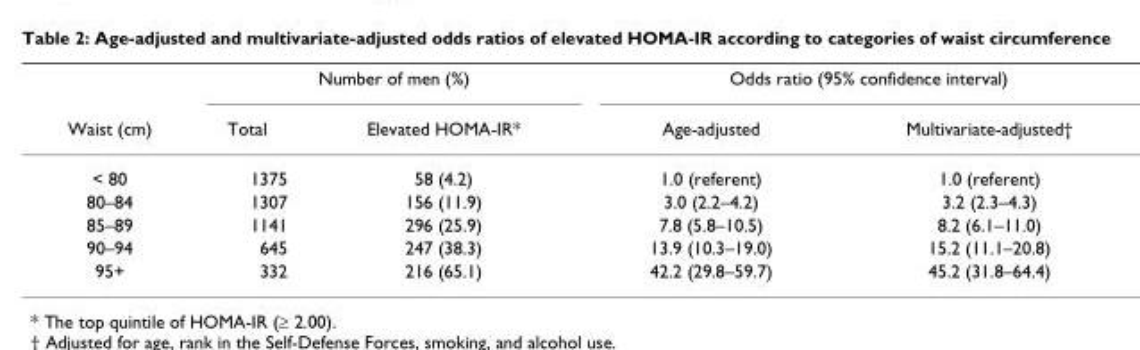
<table><thead><tr><td rowspan="2">Waist (cm)</td><td colspan="2">Number of men (%)</td><td colspan="2">Odds ratio (95% confidence interval)</td></tr><tr><td>Total</td><td>Elevated HOMA-IR*</td><td>Age-adjusted</td><td>Multivariate-adjusted†</td></tr></thead><tbody><tr><td>&lt; 80</td><td>1375</td><td>58 (4.2)</td><td>1.0 (referent)</td><td>1.0 (referent)</td></tr><tr><td>80–84</td><td>1307</td><td>156 (11.9)</td><td>3.0 (2.2–4.2)</td><td>3.2 (2.3–4.3)</td></tr><tr><td>85–89</td><td>1141</td><td>296 (25.9)</td><td>7.8 (5.8–10.5)</td><td>8.2 (6.1–11.0)</td></tr><tr><td>90–94</td><td>645</td><td>247 (38.3)</td><td>13.9 (10.3–19.0)</td><td>15.2 (11.1–20.8)</td></tr><tr><td>95+</td><td>332</td><td>216 (65.1)</td><td>42.2 (29.8–59.7)</td><td>45.2 (31.8–64.4)</td></tr></tbody></table>